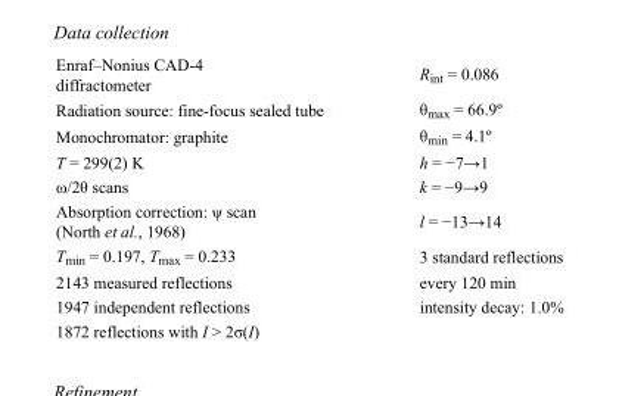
<table><tbody><tr><td>Enraf–Nonius CAD-4 diffractometer</td><td>R<sub>int</sub> = 0.086</td></tr><tr><td>Radiation source: fine-focus sealed tube</td><td>θ<sub>max</sub> = 66.9º</td></tr><tr><td>Monochromator: graphite</td><td>θ<sub>min</sub> = 4.1º</td></tr><tr><td>T = 299(2) K</td><td>h = −7→1</td></tr><tr><td>ω/2θ scans</td><td>k = −9→9</td></tr><tr><td>Absorption correction: ψ scan (North et al., 1968)</td><td>l = −13→14</td></tr><tr><td>T<sub>min</sub> = 0.197, T<sub>max</sub> = 0.233</td><td>3 standard reflections</td></tr><tr><td>2143 measured reflections</td><td>every 120 min</td></tr><tr><td>1947 independent reflections</td><td>intensity decay: 1.0%</td></tr><tr><td>1872 reflections with I &gt; 2σ(I)</td><td></td></tr></tbody></table>